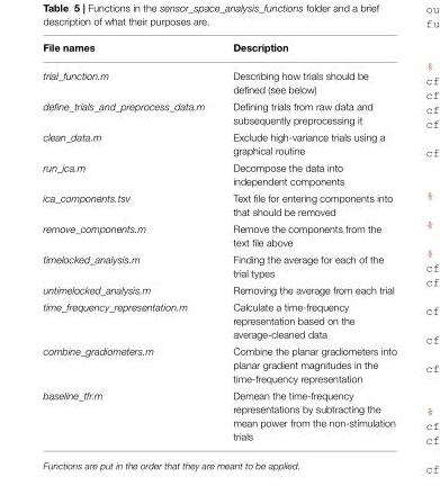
<table><thead><tr><td>File names</td><td>Description</td></tr></thead><tbody><tr><td>trial_function.m</td><td>Describing how trials should be defined (see below)</td></tr><tr><td>define_trials_and_preprocess_data.m</td><td>Defining trials from raw data and subsequently preprocessing it</td></tr><tr><td>clean_data.m</td><td>Exclude high-variance trials using a graphical routine</td></tr><tr><td>run_ica.m</td><td>Decompose the data into independent components</td></tr><tr><td>ica_components.tsv</td><td>Text file for entering components into that should be removed</td></tr><tr><td>remove_components.m</td><td>Remove the components from the text file above</td></tr><tr><td>timelocked_analysis.m</td><td>Finding the average for each of the trial types</td></tr><tr><td>untimelocked_analysis.m</td><td>Removing the average from each trial</td></tr><tr><td>time_frequency_representation.m</td><td>Calculate a time-frequency representation based on the average-cleaned data</td></tr><tr><td>combine_gradiometers.m</td><td>Combine the planar gradiometers into planar gradient magnitudes in the time-frequency representation</td></tr><tr><td>baseline_tfr.m</td><td>Demean the time-frequency representations by subtracting the mean power from the non-stimulation trials</td></tr></tbody></table>